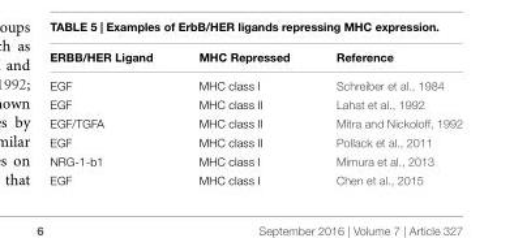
<table><thead><tr><td>ERBB/HER Ligand</td><td>MHC Repressed</td><td>Reference</td></tr></thead><tbody><tr><td>EGF</td><td>MHC class I</td><td>Schreiber et al., 1984</td></tr><tr><td>EGF</td><td>MHC class II</td><td>Lahat et al., 1992</td></tr><tr><td>EGF/TGFA</td><td>MHC class II</td><td>Mitra and Nickoloff, 1992</td></tr><tr><td>EGF</td><td>MHC class II</td><td>Pollack et al., 2011</td></tr><tr><td>NRG-1-b1</td><td>MHC class I</td><td>Mimura et al., 2013</td></tr><tr><td>EGF</td><td>MHC class I</td><td>Chen et al., 2015</td></tr></tbody></table>